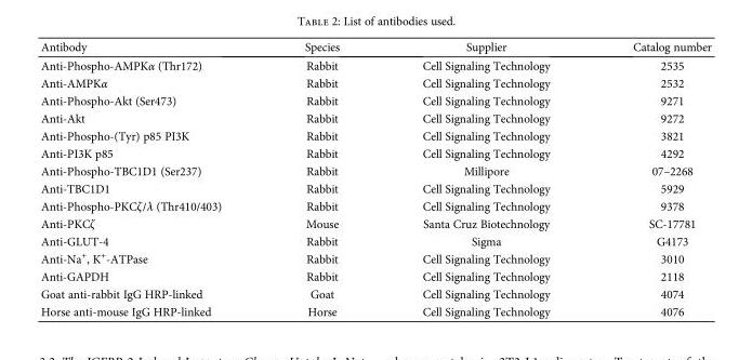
<table><thead><tr><td>Antibody</td><td>Species</td><td>Supplier</td><td>Catalog number</td></tr></thead><tbody><tr><td>Anti-Phospho-AMPKα (Thr172)</td><td>Rabbit</td><td>Cell Signaling Technology</td><td>2535</td></tr><tr><td>Anti-AMPKα</td><td>Rabbit</td><td>Cell Signaling Technology</td><td>2532</td></tr><tr><td>Anti-Phospho-Akt (Ser473)</td><td>Rabbit</td><td>Cell Signaling Technology</td><td>9271</td></tr><tr><td>Anti-Akt</td><td>Rabbit</td><td>Cell Signaling Technology</td><td>9272</td></tr><tr><td>Anti-Phospho-(Tyr) p85 PI3K</td><td>Rabbit</td><td>Cell Signaling Technology</td><td>3821</td></tr><tr><td>Anti-PI3K p85</td><td>Rabbit</td><td>Cell Signaling Technology</td><td>4292</td></tr><tr><td>Anti-Phospho-TBC1D1 (Ser237)</td><td>Rabbit</td><td>Millipore</td><td>07–2268</td></tr><tr><td>Anti-TBC1D1</td><td>Rabbit</td><td>Cell Signaling Technology</td><td>5929</td></tr><tr><td>Anti-Phospho-PKCζ/λ (Thr410/403)</td><td>Rabbit</td><td>Cell Signaling Technology</td><td>9378</td></tr><tr><td>Anti-PKCζ</td><td>Mouse</td><td>Santa Cruz Biotechnology</td><td>SC-17781</td></tr><tr><td>Anti-GLUT-4</td><td>Rabbit</td><td>Sigma</td><td>G4173</td></tr><tr><td>Anti-Na<sup>+</sup>, K<sup>+</sup>-ATPase</td><td>Rabbit</td><td>Cell Signaling Technology</td><td>3010</td></tr><tr><td>Anti-GAPDH</td><td>Rabbit</td><td>Cell Signaling Technology</td><td>2118</td></tr><tr><td>Goat anti-rabbit IgG HRP-linked</td><td>Goat</td><td>Cell Signaling Technology</td><td>4074</td></tr><tr><td>Horse anti-mouse IgG HRP-linked</td><td>Horse</td><td>Cell Signaling Technology</td><td>4076</td></tr></tbody></table>